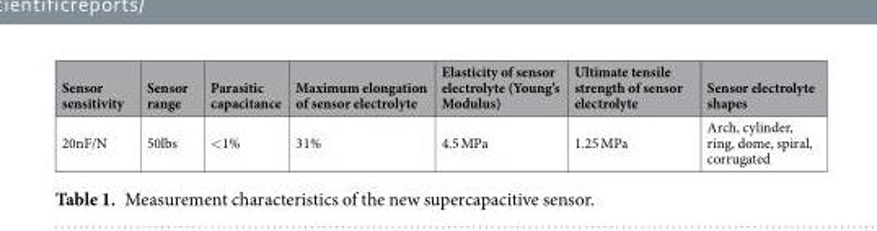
<table><thead><tr><td>Sensor sensitivity</td><td>Sensor range</td><td>Parasitic capacitance</td><td>Maximum elongation of sensor electrolyte</td><td>Elasticity of sensor electrolyte (Young’s Modulus)</td><td>Ultimate tensile strength of sensor electrolyte</td><td>Sensor electrolyte shapes</td></tr></thead><tbody><tr><td>20nF/N</td><td>50lbs</td><td>&lt;1%</td><td>31%</td><td>4.5 MPa</td><td>1.25 MPa</td><td>Arch, cylinder, ring, dome, spiral, corrugated</td></tr></tbody></table>